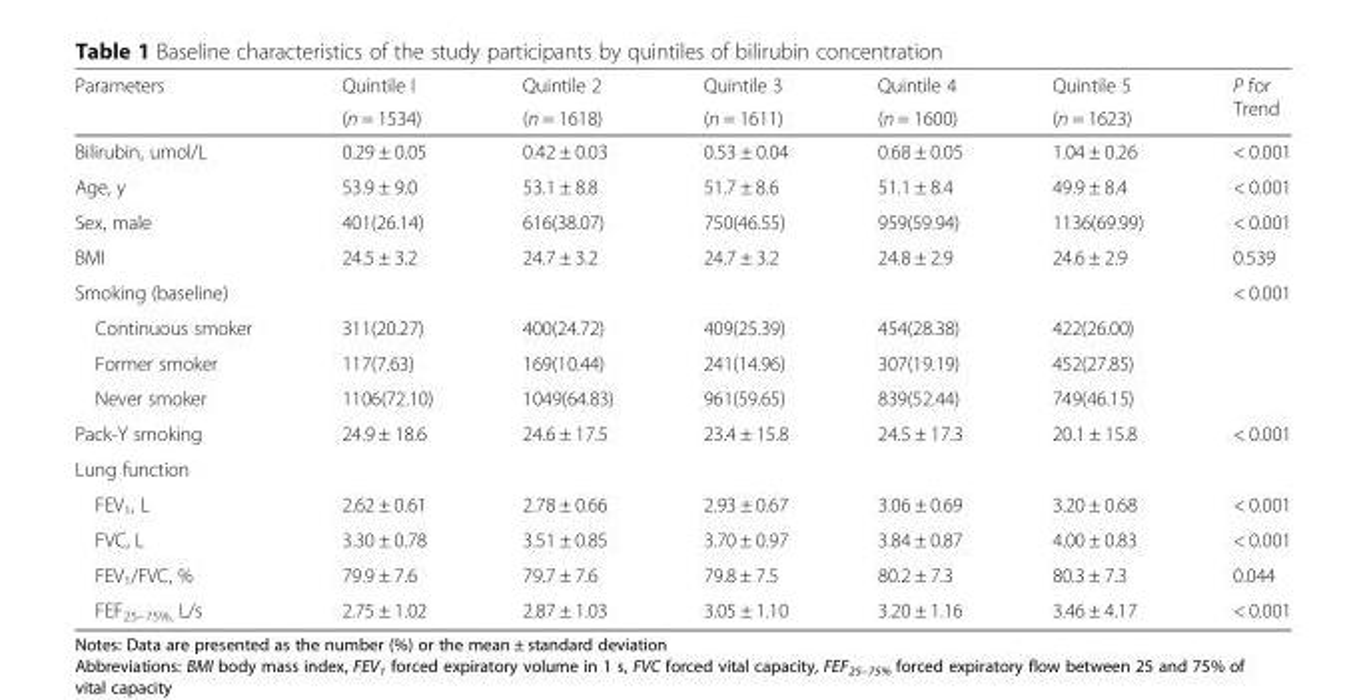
<table><thead><tr><td rowspan="2">Parameters</td><td rowspan="2">Quintile I (n = 1534)</td><td rowspan="2">Quintile 2 (n = 1618)</td><td rowspan="2">Quintile 3 (n = 1611)</td><td rowspan="2">Quintile 4 (n = 1600)</td><td rowspan="2">Quintile 5 (n = 1623)</td><td rowspan="2">P for Trend</td></tr><tr></tr></thead><tbody><tr><td>Bilirubin, umol/L</td><td>0.29 ± 0.05</td><td>0.42 ± 0.03</td><td>0.53 ± 0.04</td><td>0.68 ± 0.05</td><td>1.04 ± 0.26</td><td>&lt; 0.001</td></tr><tr><td>Age, y</td><td>53.9 ± 9.0</td><td>53.1 ± 8.8</td><td>51.7 ± 8.6</td><td>51.1 ± 8.4</td><td>49.9 ± 8.4</td><td>&lt; 0.001</td></tr><tr><td>Sex, male</td><td>401(26.14)</td><td>616(38.07)</td><td>750(46.55)</td><td>959(59.94)</td><td>1136(69.99)</td><td>&lt; 0.001</td></tr><tr><td>BMI</td><td>24.5 ± 3.2</td><td>24.7 ± 3.2</td><td>24.7 ± 3.2</td><td>24.8 ± 2.9</td><td>24.6 ± 2.9</td><td>0.539</td></tr><tr><td>Smoking (baseline)</td><td></td><td></td><td></td><td></td><td></td><td>&lt; 0.001</td></tr><tr><td>Continuous smoker</td><td>311(20.27)</td><td>400(24.72)</td><td>409(25.39)</td><td>454(28.38)</td><td>422(26.00)</td><td></td></tr><tr><td>Former smoker</td><td>117(7.63)</td><td>169(10.44)</td><td>241(14.96)</td><td>307(19.19)</td><td>452(27.85)</td><td></td></tr><tr><td>Never smoker</td><td>1106(72.10)</td><td>1049(64.83)</td><td>961(59.65)</td><td>839(52.44)</td><td>749(46.15)</td><td></td></tr><tr><td>Pack-Y smoking</td><td>24.9 ± 18.6</td><td>24.6 ± 17.5</td><td>23.4 ± 15.8</td><td>24.5 ± 17.3</td><td>20.1 ± 15.8</td><td>&lt; 0.001</td></tr><tr><td colspan="7">Lung function</td></tr><tr><td>FEV<sub>1</sub>, L</td><td>2.62 ± 0.61</td><td>2.78 ± 0.66</td><td>2.93 ± 0.67</td><td>3.06 ± 0.69</td><td>3.20 ± 0.68</td><td>&lt; 0.001</td></tr><tr><td>FVC, L</td><td>3.30 ± 0.78</td><td>3.51 ± 0.85</td><td>3.70 ± 0.97</td><td>3.84 ± 0.87</td><td>4.00 ± 0.83</td><td>&lt; 0.001</td></tr><tr><td>FEV<sub>1</sub>/FVC, %</td><td>79.9 ± 7.6</td><td>79.7 ± 7.6</td><td>79.8 ± 7.5</td><td>80.2 ± 7.3</td><td>80.3 ± 7.3</td><td>0.044</td></tr><tr><td>FEF<sub>25–75%,</sub> L/s</td><td>2.75 ± 1.02</td><td>2.87 ± 1.03</td><td>3.05 ± 1.10</td><td>3.20 ± 1.16</td><td>3.46 ± 4.17</td><td>&lt; 0.001</td></tr></tbody></table>